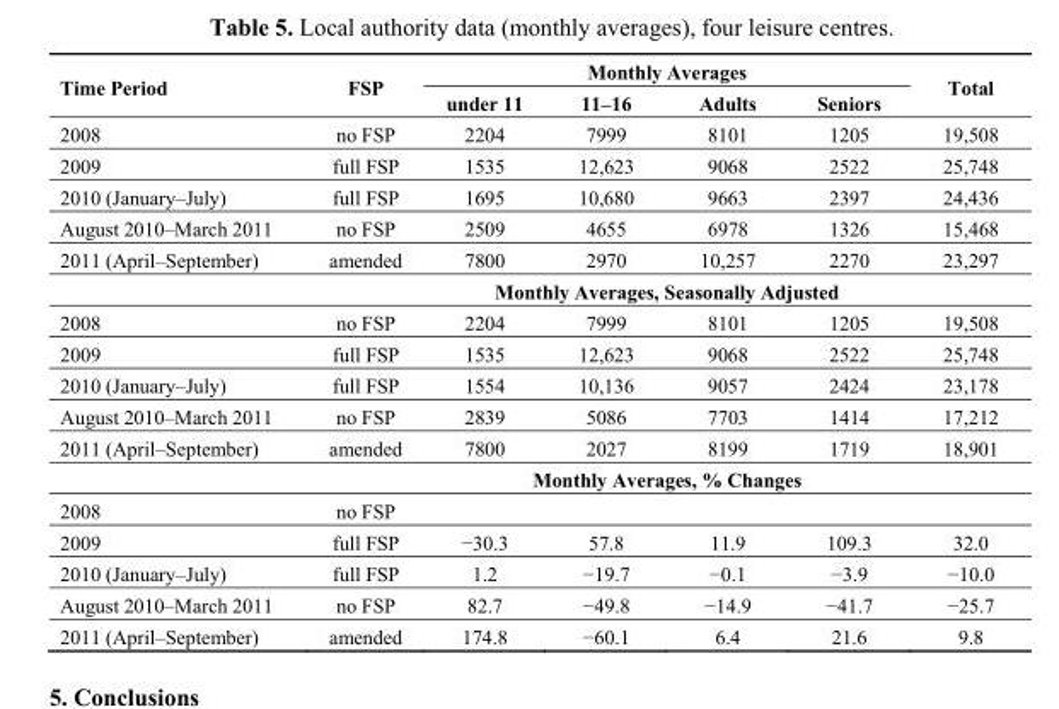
<table><thead><tr><td rowspan="2">Time Period</td><td rowspan="2">FSP</td><td colspan="4">Monthly Averages</td><td rowspan="2">Total</td></tr><tr><td>under 11</td><td>11–16</td><td>Adults</td><td>Seniors</td></tr></thead><tbody><tr><td>2008</td><td>no FSP</td><td>2204</td><td>7999</td><td>8101</td><td>1205</td><td>19,508</td></tr><tr><td>2009</td><td>full FSP</td><td>1535</td><td>12,623</td><td>9068</td><td>2522</td><td>25,748</td></tr><tr><td>2010 (January–July)</td><td>full FSP</td><td>1695</td><td>10,680</td><td>9663</td><td>2397</td><td>24,436</td></tr><tr><td>August 2010–March 2011</td><td>no FSP</td><td>2509</td><td>4655</td><td>6978</td><td>1326</td><td>15,468</td></tr><tr><td rowspan="2">2011 (April–September)</td><td>amended</td><td>7800</td><td>2970</td><td>10,257</td><td>2270</td><td>23,297</td></tr><tr><td></td><td colspan="4">Monthly Averages, Seasonally Adjusted</td><td></td></tr><tr><td>2008</td><td>no FSP</td><td>2204</td><td>7999</td><td>8101</td><td>1205</td><td>19,508</td></tr><tr><td>2009</td><td>full FSP</td><td>1535</td><td>12,623</td><td>9068</td><td>2522</td><td>25,748</td></tr><tr><td>2010 (January–July)</td><td>full FSP</td><td>1554</td><td>10,136</td><td>9057</td><td>2424</td><td>23,178</td></tr><tr><td>August 2010–March 2011</td><td>no FSP</td><td>2839</td><td>5086</td><td>7703</td><td>1414</td><td>17,212</td></tr><tr><td rowspan="2">2011 (April–September)</td><td>amended</td><td>7800</td><td>2027</td><td>8199</td><td>1719</td><td>18,901</td></tr><tr><td></td><td colspan="4">Monthly Averages, % Changes</td><td></td></tr><tr><td>2008</td><td>no FSP</td><td></td><td></td><td></td><td></td><td></td></tr><tr><td>2009</td><td>full FSP</td><td>−30.3</td><td>57.8</td><td>11.9</td><td>109.3</td><td>32.0</td></tr><tr><td>2010 (January–July)</td><td>full FSP</td><td>1.2</td><td>−19.7</td><td>−0.1</td><td>−3.9</td><td>−10.0</td></tr><tr><td>August 2010–March 2011</td><td>no FSP</td><td>82.7</td><td>−49.8</td><td>−14.9</td><td>−41.7</td><td>−25.7</td></tr><tr><td>2011 (April–September)</td><td>amended</td><td>174.8</td><td>−60.1</td><td>6.4</td><td>21.6</td><td>9.8</td></tr></tbody></table>